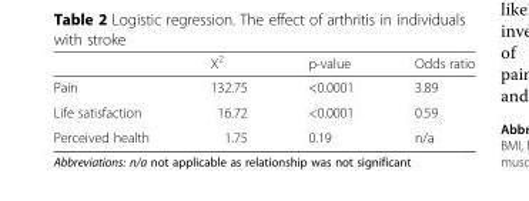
<table><thead><tr><td></td><td>X<sup>2</sup></td><td>p-value</td><td>Odds ratio</td></tr></thead><tbody><tr><td>Pain</td><td>132.75</td><td>&lt;0.0001</td><td>3.89</td></tr><tr><td>Life satisfaction</td><td>16.72</td><td>&lt;0.0001</td><td>0.59</td></tr><tr><td>Perceived health</td><td>1.75</td><td>0.19</td><td>n/a</td></tr></tbody></table>